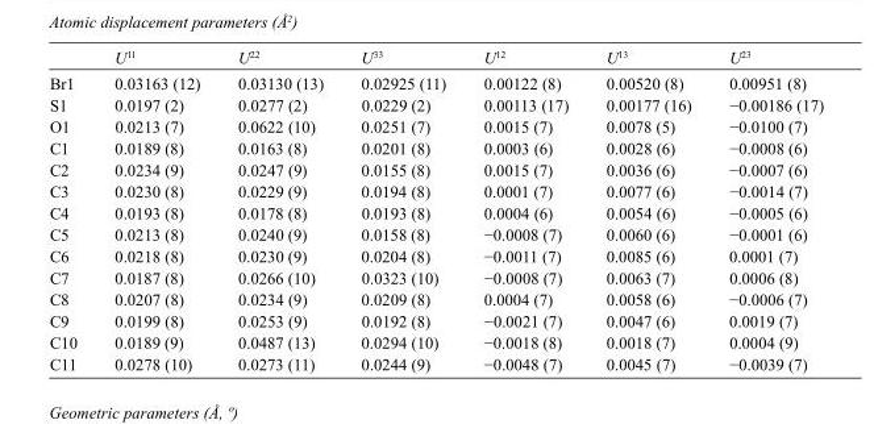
<table><thead><tr><td></td><td>U<sup>11</sup></td><td>U<sup>22</sup></td><td>U<sup>33</sup></td><td>U<sup>12</sup></td><td>U<sup>13</sup></td><td>U<sup>23</sup></td></tr></thead><tbody><tr><td>Br1</td><td>0.03163 (12)</td><td>0.03130 (13)</td><td>0.02925 (11)</td><td>0.00122 (8)</td><td>0.00520 (8)</td><td>0.00951 (8)</td></tr><tr><td>S1</td><td>0.0197 (2)</td><td>0.0277 (2)</td><td>0.0229 (2)</td><td>0.00113 (17)</td><td>0.00177 (16)</td><td>−0.00186 (17)</td></tr><tr><td>O1</td><td>0.0213 (7)</td><td>0.0622 (10)</td><td>0.0251 (7)</td><td>0.0015 (7)</td><td>0.0078 (5)</td><td>−0.0100 (7)</td></tr><tr><td>C1</td><td>0.0189 (8)</td><td>0.0163 (8)</td><td>0.0201 (8)</td><td>0.0003 (6)</td><td>0.0028 (6)</td><td>−0.0008 (6)</td></tr><tr><td>C2</td><td>0.0234 (9)</td><td>0.0247 (9)</td><td>0.0155 (8)</td><td>0.0015 (7)</td><td>0.0036 (6)</td><td>−0.0007 (6)</td></tr><tr><td>C3</td><td>0.0230 (8)</td><td>0.0229 (9)</td><td>0.0194 (8)</td><td>0.0001 (7)</td><td>0.0077 (6)</td><td>−0.0014 (7)</td></tr><tr><td>C4</td><td>0.0193 (8)</td><td>0.0178 (8)</td><td>0.0193 (8)</td><td>0.0004 (6)</td><td>0.0054 (6)</td><td>−0.0005 (6)</td></tr><tr><td>C5</td><td>0.0213 (8)</td><td>0.0240 (9)</td><td>0.0158 (8)</td><td>−0.0008 (7)</td><td>0.0060 (6)</td><td>−0.0001 (6)</td></tr><tr><td>C6</td><td>0.0218 (8)</td><td>0.0230 (9)</td><td>0.0204 (8)</td><td>−0.0011 (7)</td><td>0.0085 (6)</td><td>0.0001 (7)</td></tr><tr><td>C7</td><td>0.0187 (8)</td><td>0.0266 (10)</td><td>0.0323 (10)</td><td>−0.0008 (7)</td><td>0.0063 (7)</td><td>0.0006 (8)</td></tr><tr><td>C8</td><td>0.0207 (8)</td><td>0.0234 (9)</td><td>0.0209 (8)</td><td>0.0004 (7)</td><td>0.0058 (6)</td><td>−0.0006 (7)</td></tr><tr><td>C9</td><td>0.0199 (8)</td><td>0.0253 (9)</td><td>0.0192 (8)</td><td>−0.0021 (7)</td><td>0.0047 (6)</td><td>0.0019 (7)</td></tr><tr><td>C10</td><td>0.0189 (9)</td><td>0.0487 (13)</td><td>0.0294 (10)</td><td>−0.0018 (8)</td><td>0.0018 (7)</td><td>0.0004 (9)</td></tr><tr><td>C11</td><td>0.0278 (10)</td><td>0.0273 (11)</td><td>0.0244 (9)</td><td>−0.0048 (7)</td><td>0.0045 (7)</td><td>−0.0039 (7)</td></tr></tbody></table>